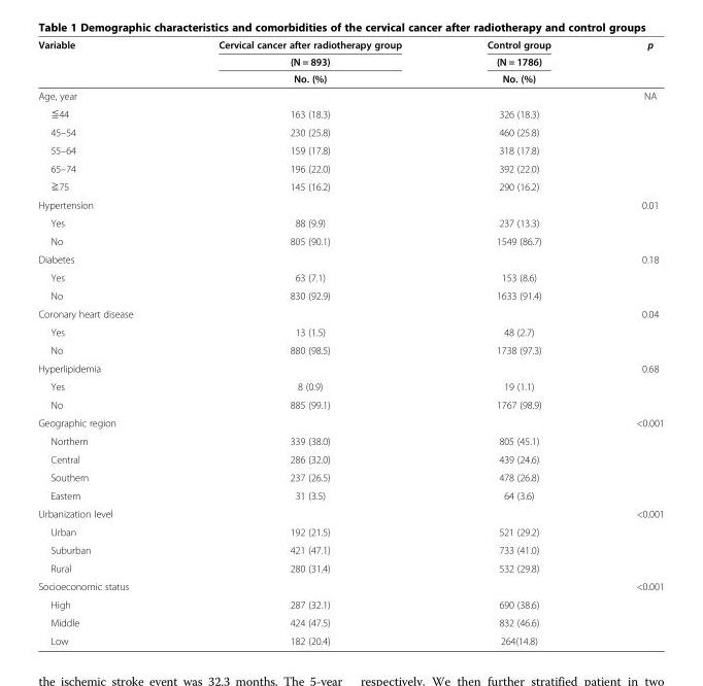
<table><thead><tr><td rowspan="3">Variable</td><td rowspan="3">Cervical cancer after radiotherapy group (N = 893) No. (%)</td><td rowspan="3">Control group (N = 1786) No. (%)</td><td rowspan="3">p</td></tr><tr></tr><tr></tr></thead><tbody><tr><td>Age, year</td><td></td><td></td><td>NA</td></tr><tr><td>≦44</td><td>163 (18.3)</td><td>326 (18.3)</td><td></td></tr><tr><td>45–54</td><td>230 (25.8)</td><td>460 (25.8)</td><td></td></tr><tr><td>55–64</td><td>159 (17.8)</td><td>318 (17.8)</td><td></td></tr><tr><td>65–74</td><td>196 (22.0)</td><td>392 (22.0)</td><td></td></tr><tr><td>≧75</td><td>145 (16.2)</td><td>290 (16.2)</td><td></td></tr><tr><td>Hypertension</td><td></td><td></td><td>0.01</td></tr><tr><td>Yes</td><td>88 (9.9)</td><td>237 (13.3)</td><td></td></tr><tr><td>No</td><td>805 (90.1)</td><td>1549 (86.7)</td><td></td></tr><tr><td>Diabetes</td><td></td><td></td><td>0.18</td></tr><tr><td>Yes</td><td>63 (7.1)</td><td>153 (8.6)</td><td></td></tr><tr><td>No</td><td>830 (92.9)</td><td>1633 (91.4)</td><td></td></tr><tr><td>Coronary heart disease</td><td></td><td></td><td>0.04</td></tr><tr><td>Yes</td><td>13 (1.5)</td><td>48 (2.7)</td><td></td></tr><tr><td>No</td><td>880 (98.5)</td><td>1738 (97.3)</td><td></td></tr><tr><td>Hyperlipidemia</td><td></td><td></td><td>0.68</td></tr><tr><td>Yes</td><td>8 (0.9)</td><td>19 (1.1)</td><td></td></tr><tr><td>No</td><td>885 (99.1)</td><td>1767 (98.9)</td><td></td></tr><tr><td>Geographic region</td><td></td><td></td><td>&lt;0.001</td></tr><tr><td>Northern</td><td>339 (38.0)</td><td>805 (45.1)</td><td></td></tr><tr><td>Central</td><td>286 (32.0)</td><td>439 (24.6)</td><td></td></tr><tr><td>Southern</td><td>237 (26.5)</td><td>478 (26.8)</td><td></td></tr><tr><td>Eastern</td><td>31 (3.5)</td><td>64 (3.6)</td><td></td></tr><tr><td>Urbanization level</td><td></td><td></td><td>&lt;0.001</td></tr><tr><td>Urban</td><td>192 (21.5)</td><td>521 (29.2)</td><td></td></tr><tr><td>Suburban</td><td>421 (47.1)</td><td>733 (41.0)</td><td></td></tr><tr><td>Rural</td><td>280 (31.4)</td><td>532 (29.8)</td><td></td></tr><tr><td>Socioeconomic status</td><td></td><td></td><td>&lt;0.001</td></tr><tr><td>High</td><td>287 (32.1)</td><td>690 (38.6)</td><td></td></tr><tr><td>Middle</td><td>424 (47.5)</td><td>832 (46.6)</td><td></td></tr><tr><td>Low</td><td>182 (20.4)</td><td>264(14.8)</td><td></td></tr></tbody></table>